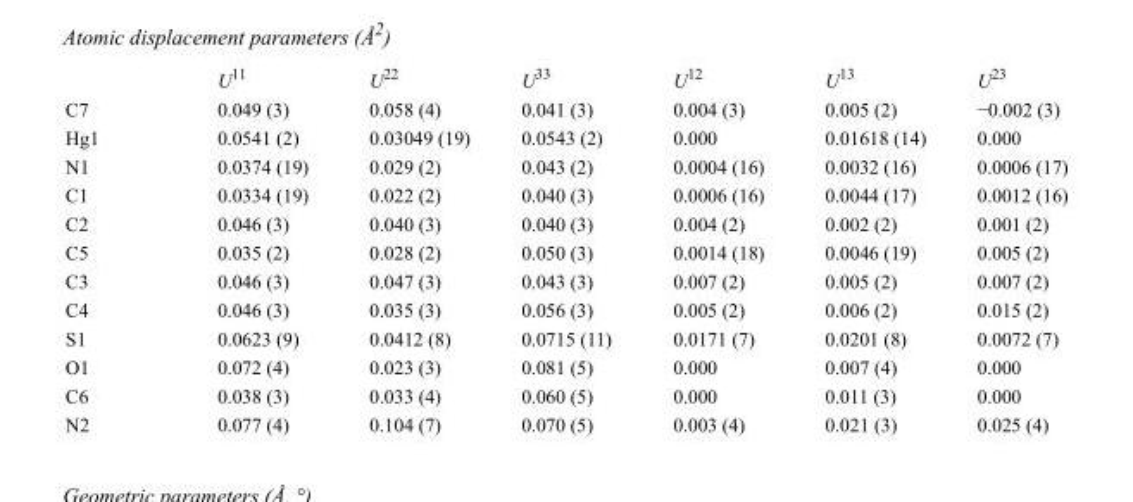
<table><thead><tr><td></td><td>U<sup>11</sup></td><td>U<sup>22</sup></td><td>U<sup>33</sup></td><td>U<sup>12</sup></td><td>U<sup>13</sup></td><td>U<sup>23</sup></td></tr></thead><tbody><tr><td>C7</td><td>0.049 (3)</td><td>0.058 (4)</td><td>0.041 (3)</td><td>0.004 (3)</td><td>0.005 (2)</td><td>−0.002 (3)</td></tr><tr><td>Hg1</td><td>0.0541 (2)</td><td>0.03049 (19)</td><td>0.0543 (2)</td><td>0.000</td><td>0.01618 (14)</td><td>0.000</td></tr><tr><td>N1</td><td>0.0374 (19)</td><td>0.029 (2)</td><td>0.043 (2)</td><td>0.0004 (16)</td><td>0.0032 (16)</td><td>0.0006 (17)</td></tr><tr><td>C1</td><td>0.0334 (19)</td><td>0.022 (2)</td><td>0.040 (3)</td><td>0.0006 (16)</td><td>0.0044 (17)</td><td>0.0012 (16)</td></tr><tr><td>C2</td><td>0.046 (3)</td><td>0.040 (3)</td><td>0.040 (3)</td><td>0.004 (2)</td><td>0.002 (2)</td><td>0.001 (2)</td></tr><tr><td>C5</td><td>0.035 (2)</td><td>0.028 (2)</td><td>0.050 (3)</td><td>0.0014 (18)</td><td>0.0046 (19)</td><td>0.005 (2)</td></tr><tr><td>C3</td><td>0.046 (3)</td><td>0.047 (3)</td><td>0.043 (3)</td><td>0.007 (2)</td><td>0.005 (2)</td><td>0.007 (2)</td></tr><tr><td>C4</td><td>0.046 (3)</td><td>0.035 (3)</td><td>0.056 (3)</td><td>0.005 (2)</td><td>0.006 (2)</td><td>0.015 (2)</td></tr><tr><td>S1</td><td>0.0623 (9)</td><td>0.0412 (8)</td><td>0.0715 (11)</td><td>0.0171 (7)</td><td>0.0201 (8)</td><td>0.0072 (7)</td></tr><tr><td>O1</td><td>0.072 (4)</td><td>0.023 (3)</td><td>0.081 (5)</td><td>0.000</td><td>0.007 (4)</td><td>0.000</td></tr><tr><td>C6</td><td>0.038 (3)</td><td>0.033 (4)</td><td>0.060 (5)</td><td>0.000</td><td>0.011 (3)</td><td>0.000</td></tr><tr><td>N2</td><td>0.077 (4)</td><td>0.104 (7)</td><td>0.070 (5)</td><td>0.003 (4)</td><td>0.021 (3)</td><td>0.025 (4)</td></tr></tbody></table>